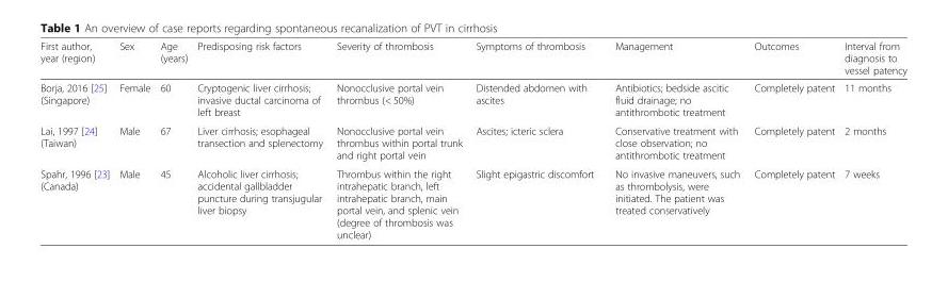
<table><thead><tr><td>First author, year (region)</td><td>Sex</td><td>Age (years)</td><td>Predisposing risk factors</td><td>Severity of thrombosis</td><td>Symptoms of thrombosis</td><td>Management</td><td>Outcomes</td><td>Interval from diagnosis to vessel patency</td></tr></thead><tbody><tr><td>Borja, 2016 [25] (Singapore)</td><td>Female</td><td>60</td><td>Cryptogenic liver cirrhosis; invasive ductal carcinoma of left breast</td><td>Nonocclusive portal vein thrombus (&lt; 50%)</td><td>Distended abdomen with ascites</td><td>Antibiotics; bedside ascitic fluid drainage; no antithrombotic treatment</td><td>Completely patent</td><td>11 months</td></tr><tr><td>Lai, 1997 [24] (Taiwan)</td><td>Male</td><td>67</td><td>Liver cirrhosis; esophageal transection and splenectomy</td><td>Nonocclusive portal vein thrombus within portal trunk and right portal vein</td><td>Ascites; icteric sclera</td><td>Conservative treatment with close observation; no antithrombotic treatment</td><td>Completely patent</td><td>2 months</td></tr><tr><td>Spahr, 1996 [23] (Canada)</td><td>Male</td><td>45</td><td>Alcoholic liver cirrhosis; accidental gallbladder puncture during transjugular liver biopsy</td><td>Thrombus within the right intrahepatic branch, left intrahepatic branch, main portal vein, and splenic vein (degree of thrombosis was unclear)</td><td>Slight epigastric discomfort</td><td>No invasive maneuvers, such as thrombolysis, were initiated. The patient was treated conservatively</td><td>Completely patent</td><td>7 weeks</td></tr></tbody></table>